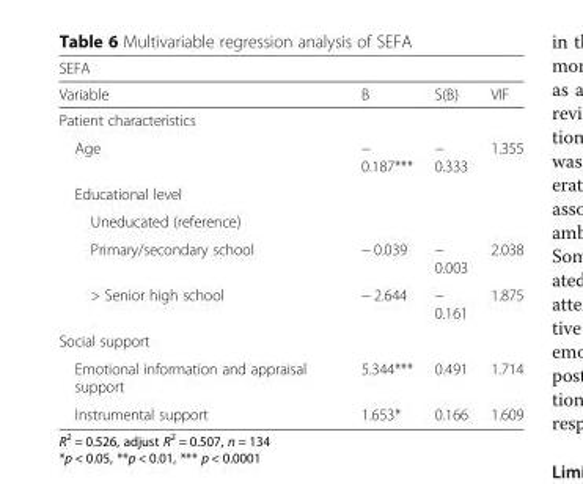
<table><thead><tr><td colspan="4">SEFA</td></tr><tr><td>Variable</td><td>B</td><td>S(B)</td><td>VIF</td></tr></thead><tbody><tr><td colspan="4">Patient characteristics</td></tr><tr><td>Age</td><td>− 0.187***</td><td>− 0.333</td><td>1.355</td></tr><tr><td colspan="4">Educational level</td></tr><tr><td colspan="4">Uneducated (reference)</td></tr><tr><td>Primary/secondary school</td><td>− 0.039</td><td>− 0.003</td><td>2.038</td></tr><tr><td>&gt; Senior high school</td><td>− 2.644</td><td>− 0.161</td><td>1.875</td></tr><tr><td colspan="4">Social support</td></tr><tr><td>Emotional information and appraisal support</td><td>5.344***</td><td>0.491</td><td>1.714</td></tr><tr><td>Instrumental support</td><td>1.653*</td><td>0.166</td><td>1.609</td></tr></tbody></table>